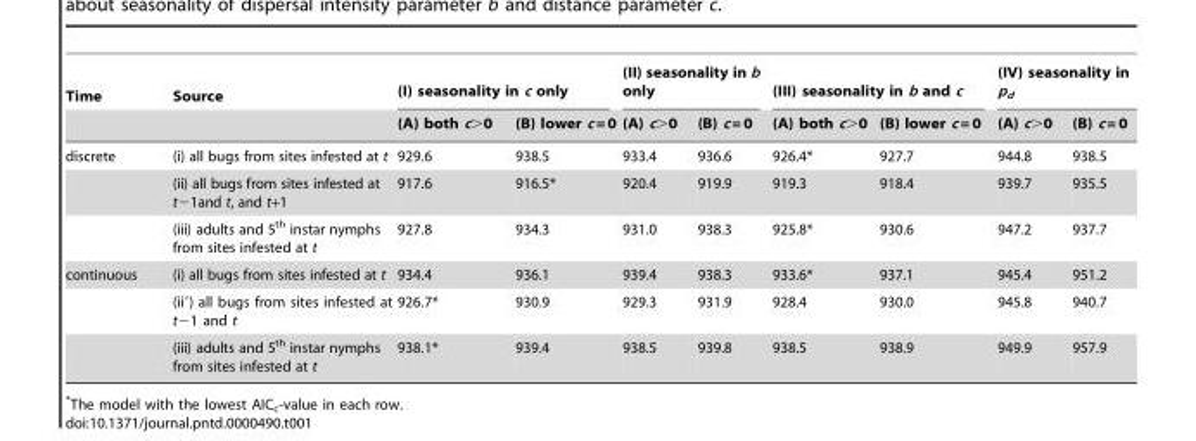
<table><thead><tr><td rowspan="2">Time</td><td rowspan="2">Source</td><td colspan="2">(I) seasonality in c only</td><td colspan="2">(II) seasonality in b only</td><td colspan="2">(III) seasonality in b and c</td><td colspan="2">(IV) seasonality in p<sub>d</sub></td></tr><tr><td>(A) both c&gt;0</td><td>(B) lower c = 0</td><td>(A) c&gt;0</td><td>(B) c = 0</td><td>(A) both c&gt;0</td><td>(B) lower c = 0</td><td>(A) c&gt;0</td><td>(B) c = 0</td></tr></thead><tbody><tr><td rowspan="3">discrete</td><td>(i) all bugs from sites infested at t</td><td>929.6</td><td>938.5</td><td>933.4</td><td>936.6</td><td>926.4*</td><td>927.7</td><td>944.8</td><td>938.5</td></tr><tr><td>(ii) all bugs from sites infested at t−1and t, and t+1</td><td>917.6</td><td>916.5*</td><td>920.4</td><td>919.9</td><td>919.3</td><td>918.4</td><td>939.7</td><td>935.5</td></tr><tr><td>(iii) adults and 5<sup>th</sup> instar nymphs from sites infested at t</td><td>927.8</td><td>934.3</td><td>931.0</td><td>938.3</td><td>925.8*</td><td>930.6</td><td>947.2</td><td>937.7</td></tr><tr><td rowspan="3">continuous</td><td>(i) all bugs from sites infested at t</td><td>934.4</td><td>936.1</td><td>939.4</td><td>938.3</td><td>933.6*</td><td>937.1</td><td>945.4</td><td>951.2</td></tr><tr><td>(ii′) all bugs from sites infested at t−1 and t</td><td>926.7*</td><td>930.9</td><td>929.3</td><td>931.9</td><td>928.4</td><td>930.0</td><td>945.8</td><td>940.7</td></tr><tr><td>(iii) adults and 5<sup>th</sup> instar nymphs from sites infested at t</td><td>938.1*</td><td>939.4</td><td>938.5</td><td>939.8</td><td>938.5</td><td>938.9</td><td>949.9</td><td>957.9</td></tr></tbody></table>